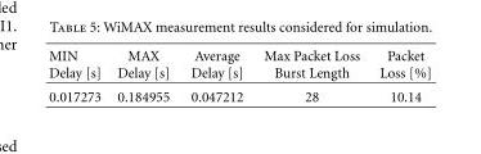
<table><thead><tr><td>MIN Delay [s]</td><td>MAX Delay [s]</td><td>Average Delay [s]</td><td>Max Packet Loss Burst Length</td><td>Packet Loss [%]</td></tr></thead><tbody><tr><td>0.017273</td><td>0.184955</td><td>0.047212</td><td>28</td><td>10.14</td></tr></tbody></table>